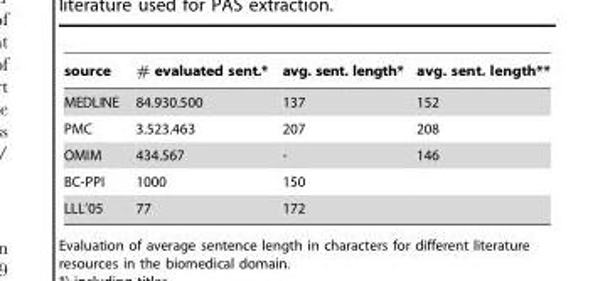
<table><thead><tr><td>source</td><td># evaluated sent.*</td><td>avg. sent. length*</td><td>avg. sent. length**</td></tr></thead><tbody><tr><td>MEDLINE</td><td>84.930.500</td><td>137</td><td>152</td></tr><tr><td>PMC</td><td>3.523.463</td><td>207</td><td>208</td></tr><tr><td>OMIM</td><td>434.567</td><td>-</td><td>146</td></tr><tr><td>BC-PPI</td><td>1000</td><td>150</td><td></td></tr><tr><td>LLL’05</td><td>77</td><td>172</td><td></td></tr></tbody></table>